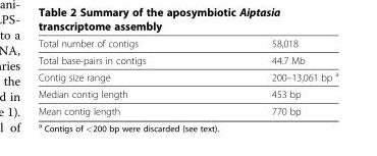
<table><tbody><tr><td>Total number of contigs</td><td>58,018</td></tr><tr><td>Total base-pairs in contigs</td><td>44.7 Mb</td></tr><tr><td>Contig size range</td><td>200–13,061 bp <sup>a</sup></td></tr><tr><td>Median contig length</td><td>453 bp</td></tr><tr><td>Mean contig length</td><td>770 bp</td></tr></tbody></table>